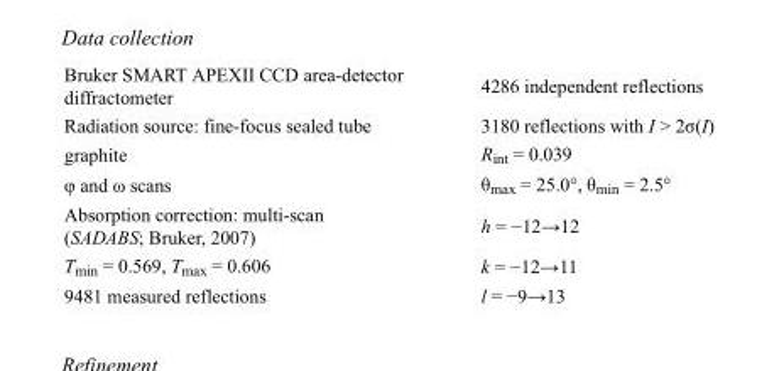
<table><tbody><tr><td>Bruker SMART APEXII CCD area-detector diffractometer</td><td>4286 independent reflections</td></tr><tr><td>Radiation source: fine-focus sealed tube</td><td>3180 reflections with I &gt; 2σ(I)</td></tr><tr><td>graphite</td><td>R<sub>int</sub> = 0.039</td></tr><tr><td>φ and ω scans</td><td>θ<sub>max</sub> = 25.0°, θ<sub>min</sub> = 2.5°</td></tr><tr><td>Absorption correction: multi-scan (SADABS; Bruker, 2007)</td><td>h = −12→12</td></tr><tr><td>T<sub>min</sub> = 0.569, T<sub>max</sub> = 0.606</td><td>k = −12→11</td></tr><tr><td>9481 measured reflections</td><td>l = −9→13</td></tr></tbody></table>